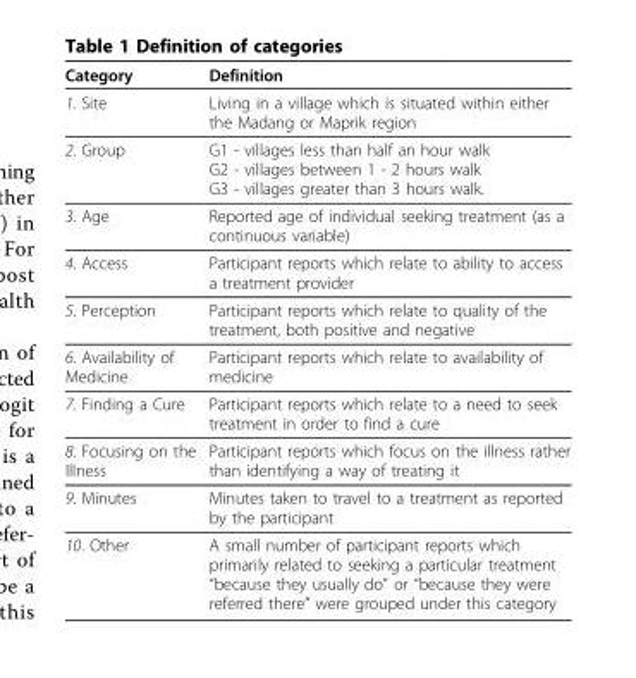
<table><thead><tr><td>Category</td><td>Definition</td></tr></thead><tbody><tr><td>1. Site</td><td>Living in a village which is situated within either the Madang or Maprik region</td></tr><tr><td>2. Group</td><td>G1 - villages less than half an hour walk G2 - villages between 1 - 2 hours walk G3 - villages greater than 3 hours walk.</td></tr><tr><td>3. Age</td><td>Reported age of individual seeking treatment (as a continuous variable)</td></tr><tr><td>4. Access</td><td>Participant reports which relate to ability to access a treatment provider</td></tr><tr><td>5. Perception</td><td>Participant reports which relate to quality of the treatment, both positive and negative</td></tr><tr><td>6. Availability of Medicine</td><td>Participant reports which relate to availability of medicine</td></tr><tr><td>7. Finding a Cure</td><td>Participant reports which relate to a need to seek treatment in order to find a cure</td></tr><tr><td>8. Focusing on the Illness</td><td>Participant reports which focus on the illness rather than identifying a way of treating it</td></tr><tr><td>9. Minutes</td><td>Minutes taken to travel to a treatment as reported by the participant</td></tr><tr><td>10. Other</td><td>A small number of participant reports which primarily related to seeking a particular treatment “because they usually do” or “because they were referred there” were grouped under this category</td></tr></tbody></table>